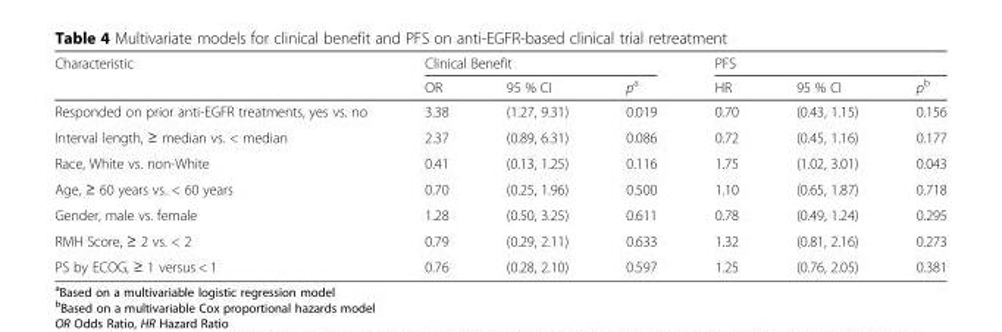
<table><thead><tr><td rowspan="2">Characteristic</td><td colspan="3">Clinical Benefit</td><td colspan="3">PFS</td></tr><tr><td>OR</td><td>95 % CI</td><td>p<sup>a</sup></td><td>HR</td><td>95 % CI</td><td>p<sup>b</sup></td></tr></thead><tbody><tr><td>Responded on prior anti-EGFR treatments, yes vs. no</td><td>3.38</td><td>(1.27, 9.31)</td><td>0.019</td><td>0.70</td><td>(0.43, 1.15)</td><td>0.156</td></tr><tr><td>Interval length, ≥ median vs. &lt; median</td><td>2.37</td><td>(0.89, 6.31)</td><td>0.086</td><td>0.72</td><td>(0.45, 1.16)</td><td>0.177</td></tr><tr><td>Race, White vs. non-White</td><td>0.41</td><td>(0.13, 1.25)</td><td>0.116</td><td>1.75</td><td>(1.02, 3.01)</td><td>0.043</td></tr><tr><td>Age, ≥ 60 years vs. &lt; 60 years</td><td>0.70</td><td>(0.25, 1.96)</td><td>0.500</td><td>1.10</td><td>(0.65, 1.87)</td><td>0.718</td></tr><tr><td>Gender, male vs. female</td><td>1.28</td><td>(0.50, 3.25)</td><td>0.611</td><td>0.78</td><td>(0.49, 1.24)</td><td>0.295</td></tr><tr><td>RMH Score, ≥ 2 vs. &lt; 2</td><td>0.79</td><td>(0.29, 2.11)</td><td>0.633</td><td>1.32</td><td>(0.81, 2.16)</td><td>0.273</td></tr><tr><td>PS by ECOG, ≥ 1 versus &lt; 1</td><td>0.76</td><td>(0.28, 2.10)</td><td>0.597</td><td>1.25</td><td>(0.76, 2.05)</td><td>0.381</td></tr></tbody></table>